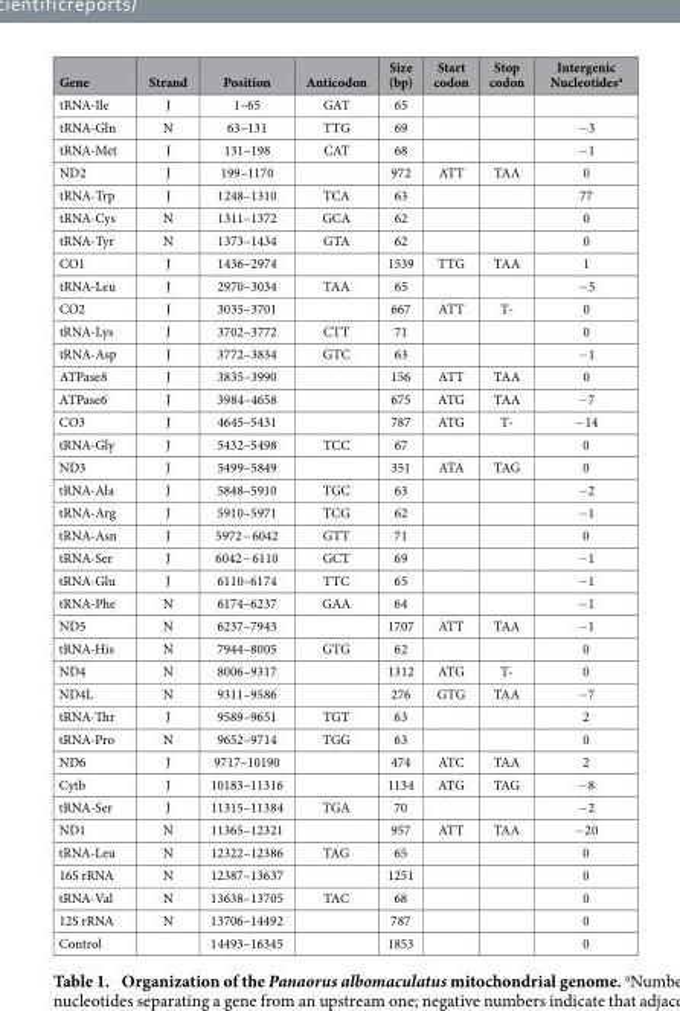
<table><thead><tr><td>Gene</td><td>Strand</td><td>Position</td><td>Anticodon</td><td>Size (bp)</td><td>Start codon</td><td>Stop codon</td><td>Intergenic Nucleotides<sup>a</sup></td></tr></thead><tbody><tr><td>tRNA-Ile</td><td>J</td><td>1–65</td><td>GAT</td><td>65</td><td></td><td></td><td></td></tr><tr><td>tRNA-Gln</td><td>N</td><td>63–131</td><td>TTG</td><td>69</td><td></td><td></td><td>− 3</td></tr><tr><td>tRNA-Met</td><td>J</td><td>131–198</td><td>CAT</td><td>68</td><td></td><td></td><td>− 1</td></tr><tr><td>ND2</td><td>J</td><td>199–1170</td><td></td><td>972</td><td>ATT</td><td>TAA</td><td>0</td></tr><tr><td>tRNA-Trp</td><td>J</td><td>1248–1310</td><td>TCA</td><td>63</td><td></td><td></td><td>77</td></tr><tr><td>tRNA-Cys</td><td>N</td><td>1311–1372</td><td>GCA</td><td>62</td><td></td><td></td><td>0</td></tr><tr><td>tRNA-Tyr</td><td>N</td><td>1373–1434</td><td>GTA</td><td>62</td><td></td><td></td><td>0</td></tr><tr><td>CO1</td><td>J</td><td>1436–2974</td><td></td><td>1539</td><td>TTG</td><td>TAA</td><td>1</td></tr><tr><td>tRNA-Leu</td><td>J</td><td>2970–3034</td><td>TAA</td><td>65</td><td></td><td></td><td>− 5</td></tr><tr><td>CO2</td><td>J</td><td>3035–3701</td><td></td><td>667</td><td>ATT</td><td>T-</td><td>0</td></tr><tr><td>tRNA-Lys</td><td>J</td><td>3702–3772</td><td>CTT</td><td>71</td><td></td><td></td><td>0</td></tr><tr><td>tRNA-Asp</td><td>J</td><td>3772–3834</td><td>GTC</td><td>63</td><td></td><td></td><td>− 1</td></tr><tr><td>ATPase8</td><td>J</td><td>3835–3990</td><td></td><td>156</td><td>ATT</td><td>TAA</td><td>0</td></tr><tr><td>ATPase6</td><td>J</td><td>3984–4658</td><td></td><td>675</td><td>ATG</td><td>TAA</td><td>− 7</td></tr><tr><td>CO3</td><td>J</td><td>4645–5431</td><td></td><td>787</td><td>ATG</td><td>T-</td><td>− 14</td></tr><tr><td>tRNA-Gly</td><td>J</td><td>5432–5498</td><td>TCC</td><td>67</td><td></td><td></td><td>0</td></tr><tr><td>ND3</td><td>J</td><td>5499–5849</td><td></td><td>351</td><td>ATA</td><td>TAG</td><td>0</td></tr><tr><td>tRNA-Ala</td><td>J</td><td>5848–5910</td><td>TGC</td><td>63</td><td></td><td></td><td>− 2</td></tr><tr><td>tRNA-Arg</td><td>J</td><td>5910–5971</td><td>TCG</td><td>62</td><td></td><td></td><td>− 1</td></tr><tr><td>tRNA-Asn</td><td>J</td><td>5972− 6042</td><td>GTT</td><td>71</td><td></td><td></td><td>0</td></tr><tr><td>tRNA-Ser</td><td>J</td><td>6042− 6110</td><td>GCT</td><td>69</td><td></td><td></td><td>− 1</td></tr><tr><td>tRNA-Glu</td><td>J</td><td>6110–6174</td><td>TTC</td><td>65</td><td></td><td></td><td>− 1</td></tr><tr><td>tRNA-Phe</td><td>N</td><td>6174–6237</td><td>GAA</td><td>64</td><td></td><td></td><td>− 1</td></tr><tr><td>ND5</td><td>N</td><td>6237–7943</td><td></td><td>1707</td><td>ATT</td><td>TAA</td><td>− 1</td></tr><tr><td>tRNA-His</td><td>N</td><td>7944–8005</td><td>GTG</td><td>62</td><td></td><td></td><td>0</td></tr><tr><td>ND4</td><td>N</td><td>8006–9317</td><td></td><td>1312</td><td>ATG</td><td>T-</td><td>0</td></tr><tr><td>ND4L</td><td>N</td><td>9311–9586</td><td></td><td>276</td><td>GTG</td><td>TAA</td><td>− 7</td></tr><tr><td>tRNA-Thr</td><td>J</td><td>9589–9651</td><td>TGT</td><td>63</td><td></td><td></td><td>2</td></tr><tr><td>tRNA-Pro</td><td>N</td><td>9652–9714</td><td>TGG</td><td>63</td><td></td><td></td><td>0</td></tr><tr><td>ND6</td><td>J</td><td>9717–10190</td><td></td><td>474</td><td>ATC</td><td>TAA</td><td>2</td></tr><tr><td>Cytb</td><td>J</td><td>10183–11316</td><td></td><td>1134</td><td>ATG</td><td>TAG</td><td>− 8</td></tr><tr><td>tRNA-Ser</td><td>J</td><td>11315–11384</td><td>TGA</td><td>70</td><td></td><td></td><td>− 2</td></tr><tr><td>ND1</td><td>N</td><td>11365–12321</td><td></td><td>957</td><td>ATT</td><td>TAA</td><td>− 20</td></tr><tr><td>tRNA-Leu</td><td>N</td><td>12322–12386</td><td>TAG</td><td>65</td><td></td><td></td><td>0</td></tr><tr><td>16S rRNA</td><td>N</td><td>12387–13637</td><td></td><td>1251</td><td></td><td></td><td>0</td></tr><tr><td>tRNA-Val</td><td>N</td><td>13638–13705</td><td>TAC</td><td>68</td><td></td><td></td><td>0</td></tr><tr><td>12S rRNA</td><td>N</td><td>13706–14492</td><td></td><td>787</td><td></td><td></td><td>0</td></tr><tr><td>Control</td><td></td><td>14493–16345</td><td></td><td>1853</td><td></td><td></td><td>0</td></tr></tbody></table>